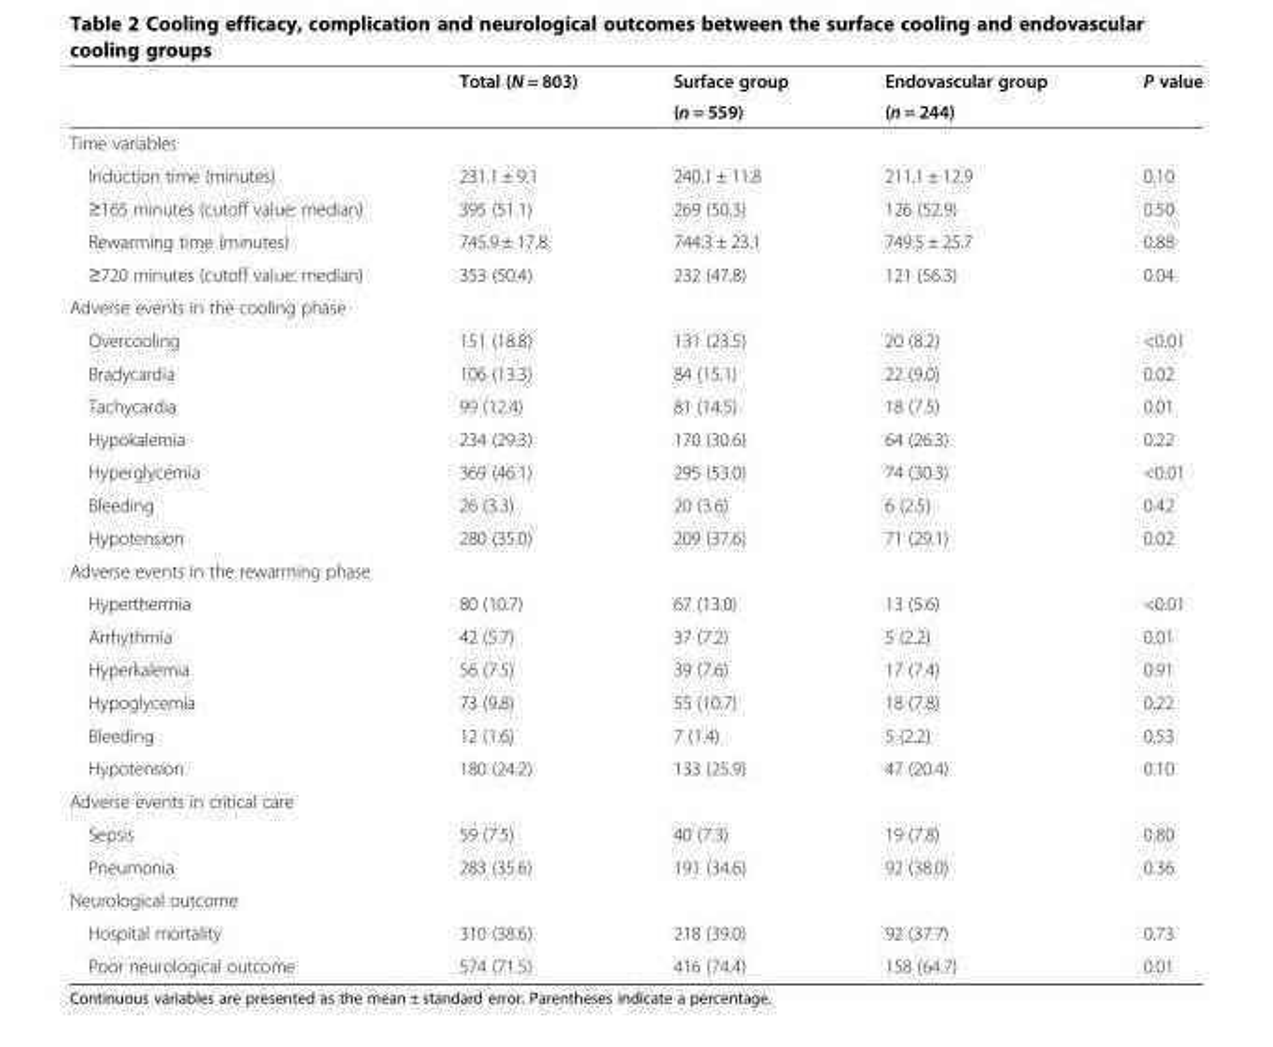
<table><thead><tr><td rowspan="2"></td><td rowspan="2">Total (N = 803)</td><td rowspan="2">Surface group (n = 559)</td><td rowspan="2">Endovascular group (n = 244)</td><td rowspan="2">P value</td></tr><tr></tr></thead><tbody><tr><td colspan="5">Time variables</td></tr><tr><td>Induction time (minutes)</td><td>231.1 ± 9.1</td><td>240.1 ± 11.8</td><td>211.1 ± 12.9</td><td>0.10</td></tr><tr><td>≥165 minutes (cutoff value: median)</td><td>395 (51.1)</td><td>269 (50.3)</td><td>126 (52.9)</td><td>0.50</td></tr><tr><td>Rewarming time (minutes)</td><td>745.9 ± 17.8</td><td>744.3 ± 23.1</td><td>749.5 ± 25.7</td><td>0.88</td></tr><tr><td>≥720 minutes (cutoff value: median)</td><td>353 (50.4)</td><td>232 (47.8)</td><td>121 (56.3)</td><td>0.04</td></tr><tr><td colspan="5">Adverse events in the cooling phase</td></tr><tr><td>Overcooling</td><td>151 (18.8)</td><td>131 (23.5)</td><td>20 (8.2)</td><td>&lt;0.01</td></tr><tr><td>Bradycardia</td><td>106 (13.3)</td><td>84 (15.1)</td><td>22 (9.0)</td><td>0.02</td></tr><tr><td>Tachycardia</td><td>99 (12.4)</td><td>81 (14.5)</td><td>18 (7.5)</td><td>0.01</td></tr><tr><td>Hypokalemia</td><td>234 (29.3)</td><td>170 (30.6)</td><td>64 (26.3)</td><td>0.22</td></tr><tr><td>Hyperglycemia</td><td>369 (46.1)</td><td>295 (53.0)</td><td>74 (30.3)</td><td>&lt;0.01</td></tr><tr><td>Bleeding</td><td>26 (3.3)</td><td>20 (3.6)</td><td>6 (2.5)</td><td>0.42</td></tr><tr><td>Hypotension</td><td>280 (35.0)</td><td>209 (37.6)</td><td>71 (29.1)</td><td>0.02</td></tr><tr><td colspan="5">Adverse events in the rewarming phase</td></tr><tr><td>Hyperthermia</td><td>80 (10.7)</td><td>67 (13.0)</td><td>13 (5.6)</td><td>&lt;0.01</td></tr><tr><td>Arrhythmia</td><td>42 (5.7)</td><td>37 (7.2)</td><td>5 (2.2)</td><td>0.01</td></tr><tr><td>Hyperkalemia</td><td>56 (7.5)</td><td>39 (7.6)</td><td>17 (7.4)</td><td>0.91</td></tr><tr><td>Hypoglycemia</td><td>73 (9.8)</td><td>55 (10.7)</td><td>18 (7.8)</td><td>0.22</td></tr><tr><td>Bleeding</td><td>12 (1.6)</td><td>7 (1.4)</td><td>5 (2.2)</td><td>0.53</td></tr><tr><td>Hypotension</td><td>180 (24.2)</td><td>133 (25.9)</td><td>47 (20.4)</td><td>0.10</td></tr><tr><td colspan="5">Adverse events in critical care</td></tr><tr><td>Sepsis</td><td>59 (7.5)</td><td>40 (7.3)</td><td>19 (7.8)</td><td>0.80</td></tr><tr><td>Pneumonia</td><td>283 (35.6)</td><td>191 (34.6)</td><td>92 (38.0)</td><td>0.36</td></tr><tr><td colspan="5">Neurological outcome</td></tr><tr><td>Hospital mortality</td><td>310 (38.6)</td><td>218 (39.0)</td><td>92 (37.7)</td><td>0.73</td></tr><tr><td>Poor neurological outcome</td><td>574 (71.5)</td><td>416 (74.4)</td><td>158 (64.7)</td><td>0.01</td></tr></tbody></table>